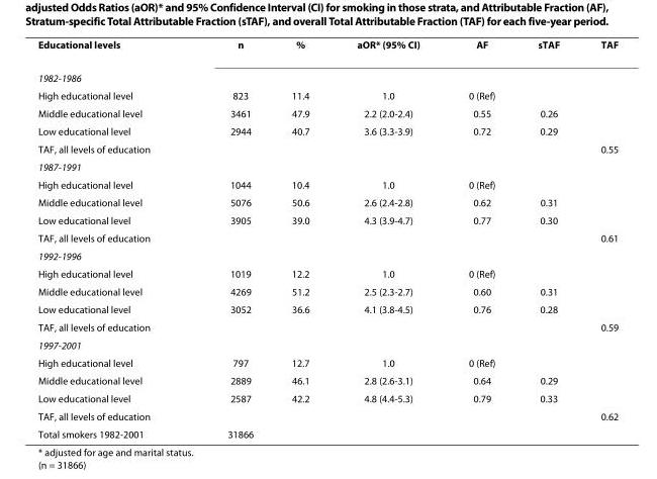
<table><tbody><tr><td>Educational levels</td><td>n</td><td>%</td><td>aOR* (95% CI)</td><td>AF</td><td>sTAF</td><td>TAF</td></tr><tr><td colspan="7">1982-1986</td></tr><tr><td>High educational level</td><td>823</td><td>11.4</td><td>1.0</td><td>0 (Ref)</td><td></td><td></td></tr><tr><td>Middle educational level</td><td>3461</td><td>47.9</td><td>2.2 (2.0-2.4)</td><td>0.55</td><td>0.26</td><td></td></tr><tr><td>Low educational level</td><td>2944</td><td>40.7</td><td>3.6 (3.3-3.9)</td><td>0.72</td><td>0.29</td><td></td></tr><tr><td>TAF, all levels of education</td><td></td><td></td><td></td><td></td><td></td><td>0.55</td></tr><tr><td colspan="7">1987-1991</td></tr><tr><td>High educational level</td><td>1044</td><td>10.4</td><td>1.0</td><td>0 (Ref)</td><td></td><td></td></tr><tr><td>Middle educational level</td><td>5076</td><td>50.6</td><td>2.6 (2.4-2.8)</td><td>0.62</td><td>0.31</td><td></td></tr><tr><td>Low educational level</td><td>3905</td><td>39.0</td><td>4.3 (3.9-4.7)</td><td>0.77</td><td>0.30</td><td></td></tr><tr><td>TAF, all levels of education</td><td></td><td></td><td></td><td></td><td></td><td>0.61</td></tr><tr><td colspan="7">1992-1996</td></tr><tr><td>High educational level</td><td>1019</td><td>12.2</td><td>1.0</td><td>0 (Ref)</td><td></td><td></td></tr><tr><td>Middle educational level</td><td>4269</td><td>51.2</td><td>2.5 (2.3-2.7)</td><td>0.60</td><td>0.31</td><td></td></tr><tr><td>Low educational level</td><td>3052</td><td>36.6</td><td>4.1 (3.8-4.5)</td><td>0.76</td><td>0.28</td><td></td></tr><tr><td>TAF, all levels of education</td><td></td><td></td><td></td><td></td><td></td><td>0.59</td></tr><tr><td colspan="7">1997-2001</td></tr><tr><td>High educational level</td><td>797</td><td>12.7</td><td>1.0</td><td>0 (Ref)</td><td></td><td></td></tr><tr><td>Middle educational level</td><td>2889</td><td>46.1</td><td>2.8 (2.6-3.1)</td><td>0.64</td><td>0.29</td><td></td></tr><tr><td>Low educational level</td><td>2587</td><td>42.2</td><td>4.8 (4.4-5.3)</td><td>0.79</td><td>0.33</td><td></td></tr><tr><td>TAF, all levels of education</td><td></td><td></td><td></td><td></td><td></td><td>0.62</td></tr><tr><td>Total smokers 1982-2001</td><td>31866</td><td></td><td></td><td></td><td></td><td></td></tr></tbody></table>